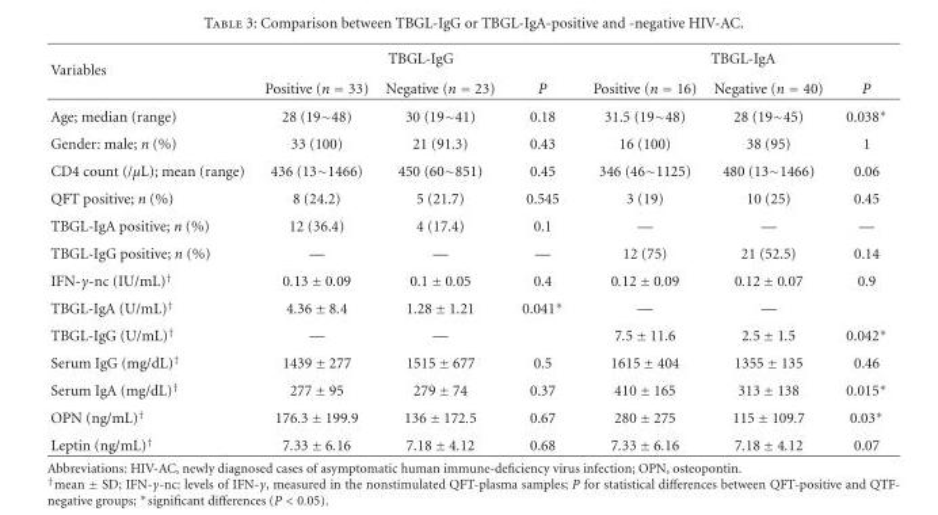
<table><thead><tr><td rowspan="2">Variables</td><td colspan="3">TBGL-IgG</td><td colspan="3">TBGL-IgA</td></tr><tr><td>Positive (n = 33)</td><td>Negative (n = 23)</td><td>P</td><td>Positive (n = 16)</td><td>Negative (n = 40)</td><td>P</td></tr></thead><tbody><tr><td>Age; median (range)</td><td>28 (19∼48)</td><td>30 (19∼41)</td><td>0.18</td><td>31.5 (19∼48)</td><td>28 (19∼45)</td><td>0.038∗</td></tr><tr><td>Gender: male; n (%)</td><td>33 (100)</td><td>21 (91.3)</td><td>0.43</td><td>16 (100)</td><td>38 (95)</td><td>1</td></tr><tr><td>CD4 count (/μL); mean (range)</td><td>436 (13∼1466)</td><td>450 (60∼851)</td><td>0.45</td><td>346 (46∼1125)</td><td>480 (13∼1466)</td><td>0.06</td></tr><tr><td>QFT positive; n (%)</td><td>8 (24.2)</td><td>5 (21.7)</td><td>0.545</td><td>3 (19)</td><td>10 (25)</td><td>0.45</td></tr><tr><td>TBGL-IgA positive; n (%)</td><td>12 (36.4)</td><td>4 (17.4)</td><td>0.1</td><td>—</td><td>—</td><td>—</td></tr><tr><td>TBGL-IgG positive; n (%)</td><td>—</td><td>—</td><td>—</td><td>12 (75)</td><td>21 (52.5)</td><td>0.14</td></tr><tr><td>IFN-γ-nc (IU/mL)<sup>†</sup></td><td>0.13 ± 0.09</td><td>0.1 ± 0.05</td><td>0.4</td><td>0.12 ± 0.09</td><td>0.12 ± 0.07</td><td>0.9</td></tr><tr><td>TBGL-IgA (U/mL)<sup>†</sup></td><td>4.36 ± 8.4</td><td>1.28 ± 1.21</td><td>0.041∗</td><td>—</td><td>—</td><td></td></tr><tr><td>TBGL-IgG (U/mL)<sup>†</sup></td><td>—</td><td>—</td><td></td><td>7.5 ± 11.6</td><td>2.5 ± 1.5</td><td>0.042∗</td></tr><tr><td>Serum IgG (mg/dL)<sup>†</sup></td><td>1439 ± 277</td><td>1515 ± 677</td><td>0.5</td><td>1615 ± 404</td><td>1355 ± 135</td><td>0.46</td></tr><tr><td>Serum IgA (mg/dL)<sup>†</sup></td><td>277 ± 95</td><td>279 ± 74</td><td>0.37</td><td>410 ± 165</td><td>313 ± 138</td><td>0.015∗</td></tr><tr><td>OPN (ng/mL)<sup>†</sup></td><td>176.3 ± 199.9</td><td>136 ± 172.5</td><td>0.67</td><td>280 ± 275</td><td>115 ± 109.7</td><td>0.03∗</td></tr><tr><td>Leptin (ng/mL)<sup>†</sup></td><td>7.33 ± 6.16</td><td>7.18 ± 4.12</td><td>0.68</td><td>7.33 ± 6.16</td><td>7.18 ± 4.12</td><td>0.07</td></tr></tbody></table>